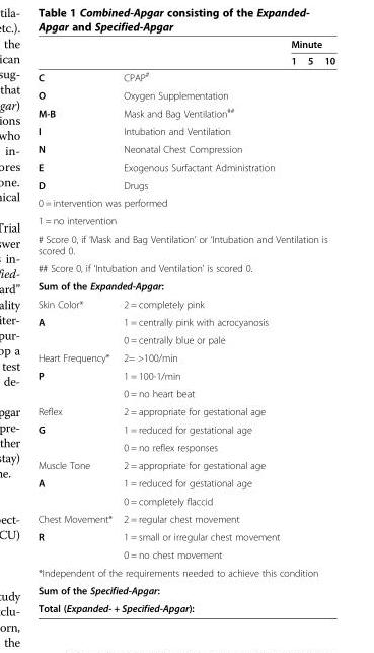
<table><thead><tr><td rowspan="2"></td><td rowspan="2"></td><td colspan="3">Minute</td></tr><tr><td>1</td><td>5</td><td>10</td></tr></thead><tbody><tr><td>C</td><td>CPAP<sup>#</sup></td><td></td><td></td><td></td></tr><tr><td>O</td><td>Oxygen Supplementation</td><td></td><td></td><td></td></tr><tr><td>M-B</td><td>Mask and Bag Ventilation<sup>##</sup></td><td></td><td></td><td></td></tr><tr><td>I</td><td>Intubation and Ventilation</td><td></td><td></td><td></td></tr><tr><td>N</td><td>Neonatal Chest Compression</td><td></td><td></td><td></td></tr><tr><td>E</td><td>Exogenous Surfactant Administration</td><td></td><td></td><td></td></tr><tr><td>D</td><td>Drugs</td><td></td><td></td><td></td></tr><tr><td colspan="5">0 = intervention was performed</td></tr><tr><td colspan="5">1 = no intervention</td></tr><tr><td colspan="5"># Score 0, if ‘Mask and Bag Ventilation’ or ‘Intubation and Ventilation is scored 0.</td></tr><tr><td colspan="5">## Score 0, if ‘Intubation and Ventilation’ is scored 0.</td></tr><tr><td colspan="5">Sum of the Expanded-Apgar:</td></tr><tr><td>Skin Color*</td><td>2 = completely pink</td><td></td><td></td><td></td></tr><tr><td rowspan="2">A</td><td>1 = centrally pink with acrocyanosis</td><td></td><td></td><td></td></tr><tr><td>0 = centrally blue or pale</td><td></td><td></td><td></td></tr><tr><td>Heart Frequency*</td><td>2= &gt;100/min</td><td></td><td></td><td></td></tr><tr><td rowspan="2">P</td><td>1 = 100-1/min</td><td></td><td></td><td></td></tr><tr><td>0 = no heart beat</td><td></td><td></td><td></td></tr><tr><td>Reflex</td><td>2 = appropriate for gestational age</td><td></td><td></td><td></td></tr><tr><td rowspan="2">G</td><td>1 = reduced for gestational age</td><td></td><td></td><td></td></tr><tr><td>0 = no reflex responses</td><td></td><td></td><td></td></tr><tr><td>Muscle Tone</td><td>2 = appropriate for gestational age</td><td></td><td></td><td></td></tr><tr><td rowspan="2">A</td><td>1 = reduced for gestational age</td><td></td><td></td><td></td></tr><tr><td>0 = completely flaccid</td><td></td><td></td><td></td></tr><tr><td>Chest Movement*</td><td>2 = regular chest movement</td><td></td><td></td><td></td></tr><tr><td rowspan="2">R</td><td>1 = small or irregular chest movement</td><td></td><td></td><td></td></tr><tr><td>0 = no chest movement</td><td></td><td></td><td></td></tr><tr><td colspan="5">*Independent of the requirements needed to achieve this condition</td></tr><tr><td colspan="5">Sum of the Specified-Apgar:</td></tr><tr><td colspan="5">Total (Expanded- + Specified-Apgar):</td></tr></tbody></table>